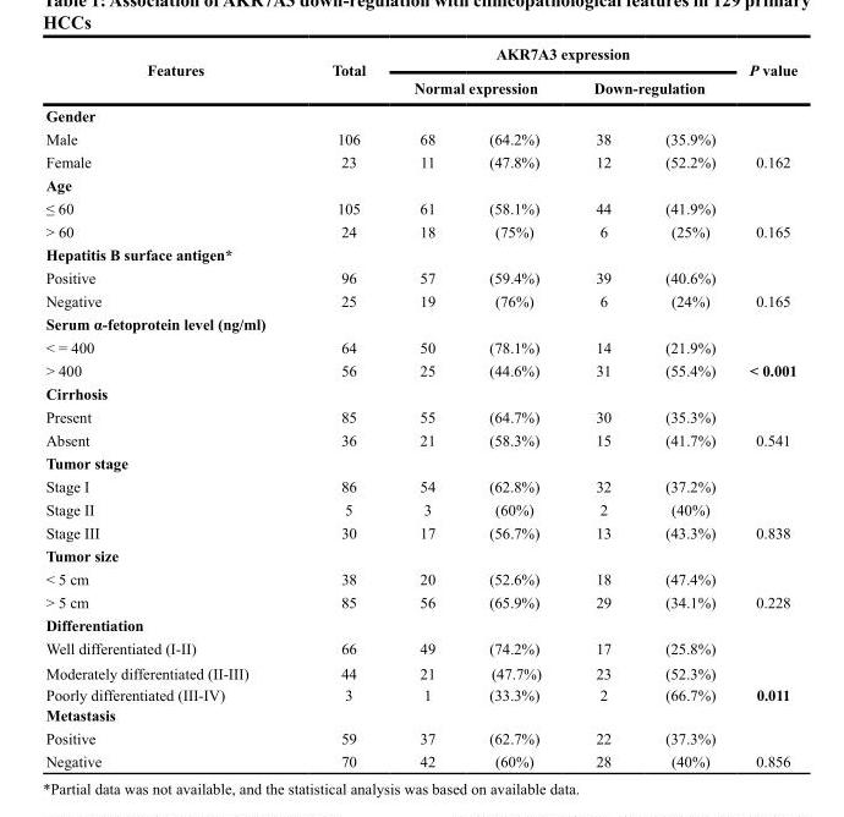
<table><thead><tr><td rowspan="3">Features Gender</td><td rowspan="3">Total</td><td colspan="4">AKR7A3 expression</td><td rowspan="3">P value</td></tr><tr><td colspan="2">Normal expression</td><td colspan="2">Down-regulation</td></tr><tr><td></td><td></td><td></td><td></td></tr></thead><tbody><tr><td>Male</td><td>106</td><td>68</td><td>(64.2%)</td><td>38</td><td>(35.9%)</td><td></td></tr><tr><td>Female</td><td>23</td><td>11</td><td>(47.8%)</td><td>12</td><td>(52.2%)</td><td>0.162</td></tr><tr><td colspan="7">Age</td></tr><tr><td>≤ 60</td><td>105</td><td>61</td><td>(58.1%)</td><td>44</td><td>(41.9%)</td><td></td></tr><tr><td>&gt; 60</td><td>24</td><td>18</td><td>(75%)</td><td>6</td><td>(25%)</td><td>0.165</td></tr><tr><td colspan="7">Hepatitis B surface antigen*</td></tr><tr><td>Positive</td><td>96</td><td>57</td><td>(59.4%)</td><td>39</td><td>(40.6%)</td><td></td></tr><tr><td>Negative</td><td>25</td><td>19</td><td>(76%)</td><td>6</td><td>(24%)</td><td>0.165</td></tr><tr><td colspan="7">Serum α-fetoprotein level (ng/ml)</td></tr><tr><td>&lt; = 400</td><td>64</td><td>50</td><td>(78.1%)</td><td>14</td><td>(21.9%)</td><td></td></tr><tr><td>&gt; 400</td><td>56</td><td>25</td><td>(44.6%)</td><td>31</td><td>(55.4%)</td><td>&lt; 0.001</td></tr><tr><td colspan="7">Cirrhosis</td></tr><tr><td>Present</td><td>85</td><td>55</td><td>(64.7%)</td><td>30</td><td>(35.3%)</td><td></td></tr><tr><td>Absent</td><td>36</td><td>21</td><td>(58.3%)</td><td>15</td><td>(41.7%)</td><td>0.541</td></tr><tr><td colspan="7">Tumor stage</td></tr><tr><td>Stage I</td><td>86</td><td>54</td><td>(62.8%)</td><td>32</td><td>(37.2%)</td><td></td></tr><tr><td>Stage II</td><td>5</td><td>3</td><td>(60%)</td><td>2</td><td>(40%)</td><td></td></tr><tr><td>Stage III</td><td>30</td><td>17</td><td>(56.7%)</td><td>13</td><td>(43.3%)</td><td>0.838</td></tr><tr><td colspan="7">Tumor size</td></tr><tr><td>&lt; 5 cm</td><td>38</td><td>20</td><td>(52.6%)</td><td>18</td><td>(47.4%)</td><td></td></tr><tr><td>&gt; 5 cm</td><td>85</td><td>56</td><td>(65.9%)</td><td>29</td><td>(34.1%)</td><td>0.228</td></tr><tr><td colspan="7">Differentiation</td></tr><tr><td>Well differentiated (I-II)</td><td>66</td><td>49</td><td>(74.2%)</td><td>17</td><td>(25.8%)</td><td></td></tr><tr><td>Moderately differentiated (II-III)</td><td>44</td><td>21</td><td>(47.7%)</td><td>23</td><td>(52.3%)</td><td></td></tr><tr><td>Poorly differentiated (III-IV)</td><td>3</td><td>1</td><td>(33.3%)</td><td>2</td><td>(66.7%)</td><td>0.011</td></tr><tr><td colspan="7">Metastasis</td></tr><tr><td>Positive</td><td>59</td><td>37</td><td>(62.7%)</td><td>22</td><td>(37.3%)</td><td></td></tr><tr><td>Negative</td><td>70</td><td>42</td><td>(60%)</td><td>28</td><td>(40%)</td><td>0.856</td></tr></tbody></table>